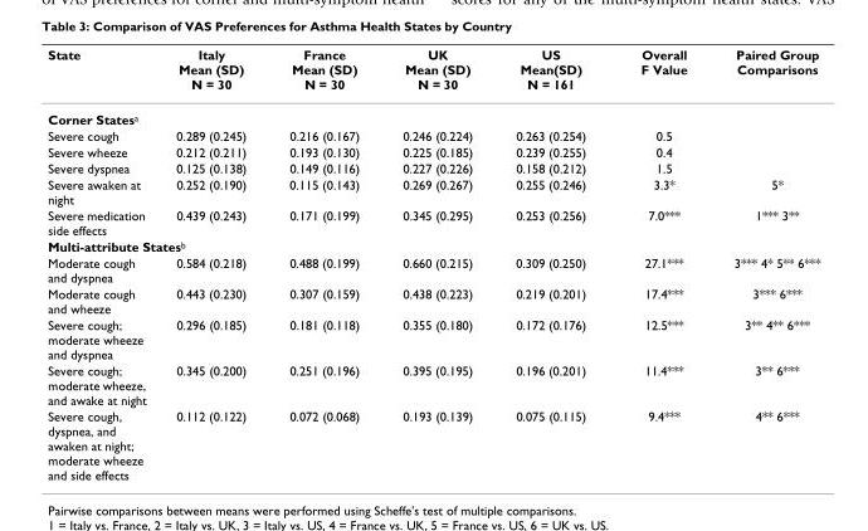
<table><thead><tr><td>State</td><td>Italy Mean (SD) N = 30</td><td>France Mean (SD) N = 30</td><td>UK Mean (SD) N = 30</td><td>US Mean(SD) N = 161</td><td>Overall F Value</td><td>Paired Group Comparisons</td></tr></thead><tbody><tr><td colspan="7">Corner States<sup>a</sup></td></tr><tr><td>Severe cough</td><td>0.289 (0.245)</td><td>0.216 (0.167)</td><td>0.246 (0.224)</td><td>0.263 (0.254)</td><td>0.5</td><td></td></tr><tr><td>Severe wheeze</td><td>0.212 (0.211)</td><td>0.193 (0.130)</td><td>0.225 (0.185)</td><td>0.239 (0.255)</td><td>0.4</td><td></td></tr><tr><td>Severe dyspnea</td><td>0.125 (0.138)</td><td>0.149 (0.116)</td><td>0.227 (0.226)</td><td>0.158 (0.212)</td><td>1.5</td><td></td></tr><tr><td>Severe awaken at night</td><td>0.252 (0.190)</td><td>0.115 (0.143)</td><td>0.269 (0.267)</td><td>0.255 (0.246)</td><td>3.3*</td><td>5*</td></tr><tr><td>Severe medication side effects</td><td>0.439 (0.243)</td><td>0.171 (0.199)</td><td>0.345 (0.295)</td><td>0.253 (0.256)</td><td>7.0***</td><td>1*** 3**</td></tr><tr><td colspan="7">Multi-attribute States<sup>b</sup></td></tr><tr><td>Moderate cough and dyspnea</td><td>0.584 (0.218)</td><td>0.488 (0.199)</td><td>0.660 (0.215)</td><td>0.309 (0.250)</td><td>27.1***</td><td>3*** 4* 5** 6***</td></tr><tr><td>Moderate cough and wheeze</td><td>0.443 (0.230)</td><td>0.307 (0.159)</td><td>0.438 (0.223)</td><td>0.219 (0.201)</td><td>17.4***</td><td>3*** 6***</td></tr><tr><td>Severe cough; moderate wheeze and dyspnea</td><td>0.296 (0.185)</td><td>0.181 (0.118)</td><td>0.355 (0.180)</td><td>0.172 (0.176)</td><td>12.5***</td><td>3** 4** 6***</td></tr><tr><td>Severe cough; moderate wheeze, and awake at night</td><td>0.345 (0.200)</td><td>0.251 (0.196)</td><td>0.395 (0.195)</td><td>0.196 (0.201)</td><td>11.4***</td><td>3** 6***</td></tr><tr><td>Severe cough, dyspnea, and awaken at night; moderate wheeze and side effects</td><td>0.112 (0.122)</td><td>0.072 (0.068)</td><td>0.193 (0.139)</td><td>0.075 (0.115)</td><td>9.4***</td><td>4** 6***</td></tr></tbody></table>